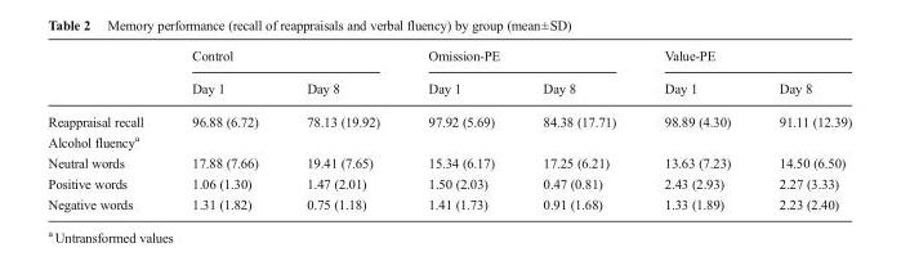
<table><thead><tr><td rowspan="2"></td><td colspan="2">Control</td><td colspan="2">Omission-PE</td><td colspan="2">Value-PE</td></tr><tr><td>Day 1</td><td>Day 8</td><td>Day 1</td><td>Day 8</td><td>Day 1</td><td>Day 8</td></tr></thead><tbody><tr><td>Reappraisal recall</td><td>96.88 (6.72)</td><td>78.13 (19.92)</td><td>97.92 (5.69)</td><td>84.38 (17.71)</td><td>98.89 (4.30)</td><td>91.11 (12.39)</td></tr><tr><td colspan="7">Alcohol fluency<sup>a</sup></td></tr><tr><td>Neutral words</td><td>17.88 (7.66)</td><td>19.41 (7.65)</td><td>15.34 (6.17)</td><td>17.25 (6.21)</td><td>13.63 (7.23)</td><td>14.50 (6.50)</td></tr><tr><td>Positive words</td><td>1.06 (1.30)</td><td>1.47 (2.01)</td><td>1.50 (2.03)</td><td>0.47 (0.81)</td><td>2.43 (2.93)</td><td>2.27 (3.33)</td></tr><tr><td>Negative words</td><td>1.31 (1.82)</td><td>0.75 (1.18)</td><td>1.41 (1.73)</td><td>0.91 (1.68)</td><td>1.33 (1.89)</td><td>2.23 (2.40)</td></tr></tbody></table>